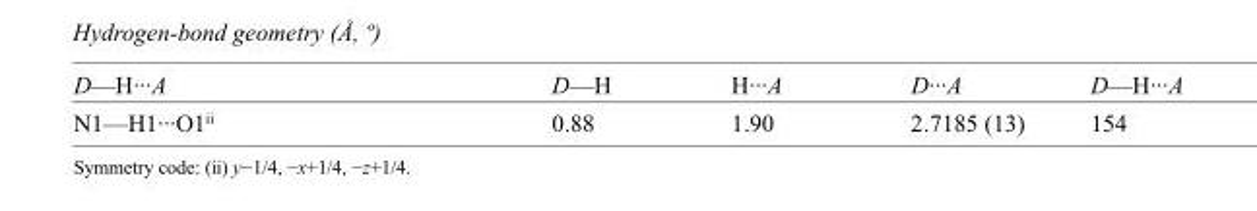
<table><tbody><tr><td>D—H···A</td><td>D—H</td><td>H···A</td><td>D···A</td><td>D—H···A</td></tr><tr><td>N1—H1···O1<sup>ii</sup></td><td>0.88</td><td>1.90</td><td>2.7185 (13)</td><td>154</td></tr></tbody></table>